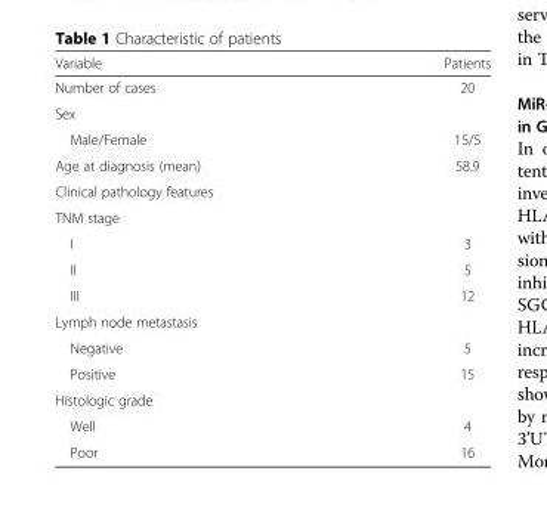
<table><thead><tr><td>Variable</td><td>Patients</td></tr></thead><tbody><tr><td>Number of cases</td><td>20</td></tr><tr><td colspan="2">Sex</td></tr><tr><td>Male/Female</td><td>15/5</td></tr><tr><td>Age at diagnosis (mean)</td><td>58.9</td></tr><tr><td colspan="2">Clinical pathology features</td></tr><tr><td colspan="2">TNM stage</td></tr><tr><td>I</td><td>3</td></tr><tr><td>II</td><td>5</td></tr><tr><td>III</td><td>12</td></tr><tr><td colspan="2">Lymph node metastasis</td></tr><tr><td>Negative</td><td>5</td></tr><tr><td>Positive</td><td>15</td></tr><tr><td colspan="2">Histologic grade</td></tr><tr><td>Well</td><td>4</td></tr><tr><td>Poor</td><td>16</td></tr></tbody></table>